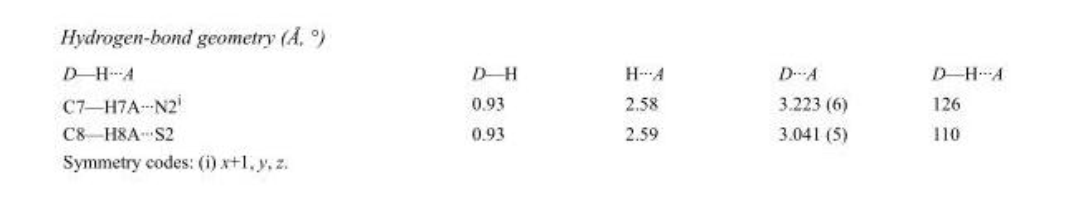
<table><tbody><tr><td>D—H···A</td><td>D—H</td><td>H···A</td><td>D···A</td><td>D—H···A</td></tr><tr><td>C7—H7A···N2<sup>i</sup></td><td>0.93</td><td>2.58</td><td>3.223 (6)</td><td>126</td></tr><tr><td>C8—H8A···S2</td><td>0.93</td><td>2.59</td><td>3.041 (5)</td><td>110</td></tr></tbody></table>